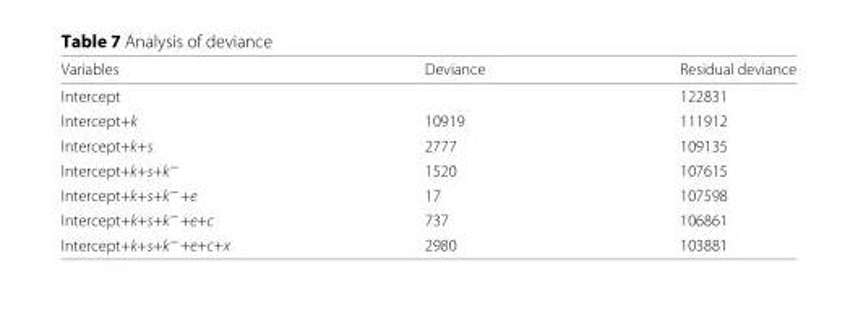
<table><thead><tr><td>Variables</td><td>Deviance</td><td>Residual deviance</td></tr></thead><tbody><tr><td>Intercept</td><td></td><td>122831</td></tr><tr><td>Intercept+k</td><td>10919</td><td>111912</td></tr><tr><td>Intercept+k+s</td><td>2777</td><td>109135</td></tr><tr><td>Intercept+k+s+k<sup>−</sup></td><td>1520</td><td>107615</td></tr><tr><td>Intercept+k+s+k<sup>−</sup>+e</td><td>17</td><td>107598</td></tr><tr><td>Intercept+k+s+k<sup>−</sup>+e+c</td><td>737</td><td>106861</td></tr><tr><td>Intercept+k+s+k<sup>−</sup>+e+c+x</td><td>2980</td><td>103881</td></tr></tbody></table>